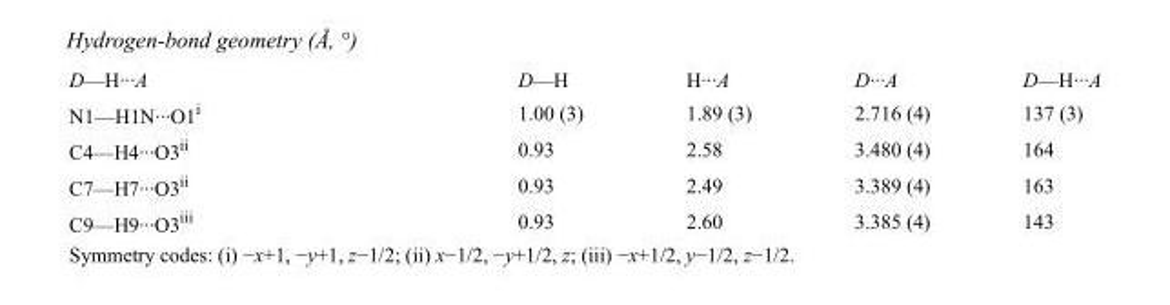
<table><tbody><tr><td>D—H···A</td><td>D—H</td><td>H···A</td><td>D···A</td><td>D—H···A</td></tr><tr><td>N1—H1N···O1<sup>i</sup></td><td>1.00 (3)</td><td>1.89 (3)</td><td>2.716 (4)</td><td>137 (3)</td></tr><tr><td>C4—H4···O3<sup>ii</sup></td><td>0.93</td><td>2.58</td><td>3.480 (4)</td><td>164</td></tr><tr><td>C7—H7···O3<sup>ii</sup></td><td>0.93</td><td>2.49</td><td>3.389 (4)</td><td>163</td></tr><tr><td>C9—H9···O3<sup>iii</sup></td><td>0.93</td><td>2.60</td><td>3.385 (4)</td><td>143</td></tr></tbody></table>